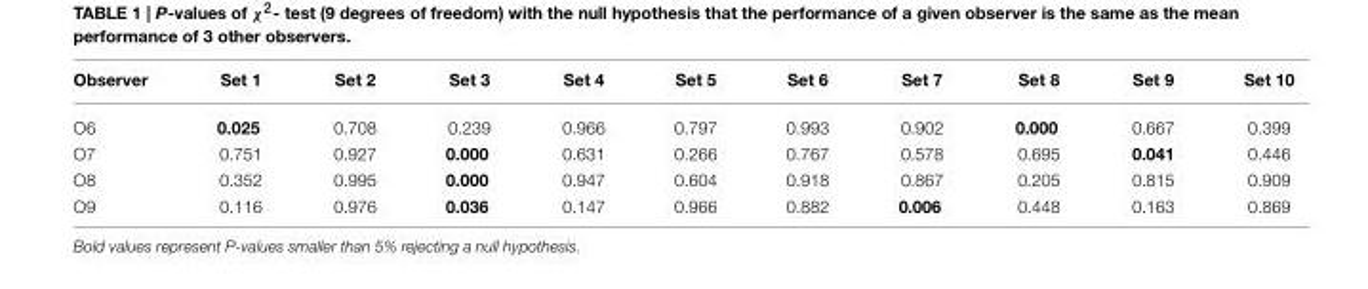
<table><thead><tr><td>Observer</td><td>Set 1</td><td>Set 2</td><td>Set 3</td><td>Set 4</td><td>Set 5</td><td>Set 6</td><td>Set 7</td><td>Set 8</td><td>Set 9</td><td>Set 10</td></tr></thead><tbody><tr><td>O6</td><td>0.025</td><td>0.708</td><td>0.239</td><td>0.966</td><td>0.797</td><td>0.993</td><td>0.902</td><td>0.000</td><td>0.667</td><td>0.399</td></tr><tr><td>O7</td><td>0.751</td><td>0.927</td><td>0.000</td><td>0.631</td><td>0.266</td><td>0.767</td><td>0.578</td><td>0.695</td><td>0.041</td><td>0.446</td></tr><tr><td>O8</td><td>0.352</td><td>0.995</td><td>0.000</td><td>0.947</td><td>0.604</td><td>0.918</td><td>0.867</td><td>0.205</td><td>0.815</td><td>0.909</td></tr><tr><td>O9</td><td>0.116</td><td>0.976</td><td>0.036</td><td>0.147</td><td>0.966</td><td>0.882</td><td>0.006</td><td>0.448</td><td>0.163</td><td>0.869</td></tr></tbody></table>